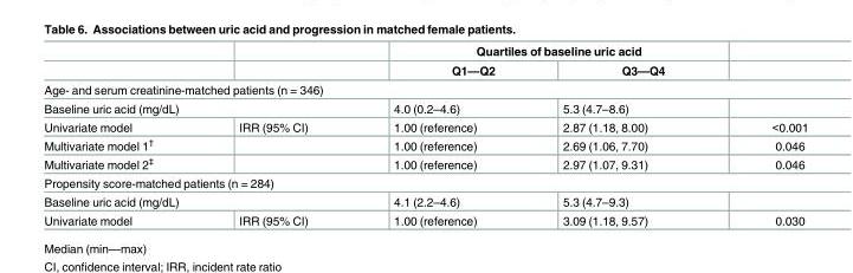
<table><thead><tr><td rowspan="2"></td><td rowspan="2"></td><td colspan="2">Quartiles of baseline uric acid</td><td rowspan="2"></td></tr><tr><td>Q1—Q2</td><td>Q3—Q4</td></tr></thead><tbody><tr><td colspan="5">Age- and serum creatinine-matched patients (n = 346)</td></tr><tr><td colspan="2">Baseline uric acid (mg/dL)</td><td>4.0 (0.2–4.6)</td><td>5.3 (4.7–8.6)</td><td></td></tr><tr><td>Univariate model</td><td>IRR (95% CI)</td><td>1.00 (reference)</td><td>2.87 (1.18, 8.00)</td><td>&lt;0.001</td></tr><tr><td>Multivariate model 1<sup>†</sup></td><td></td><td>1.00 (reference)</td><td>2.69 (1.06, 7.70)</td><td>0.046</td></tr><tr><td>Multivariate model 2<sup>‡</sup></td><td></td><td>1.00 (reference)</td><td>2.97 (1.07, 9.31)</td><td>0.046</td></tr><tr><td colspan="5">Propensity score-matched patients (n = 284)</td></tr><tr><td colspan="2">Baseline uric acid (mg/dL)</td><td>4.1 (2.2–4.6)</td><td>5.3 (4.7–9.3)</td><td></td></tr><tr><td>Univariate model</td><td>IRR (95% CI)</td><td>1.00 (reference)</td><td>3.09 (1.18, 9.57)</td><td>0.030</td></tr></tbody></table>